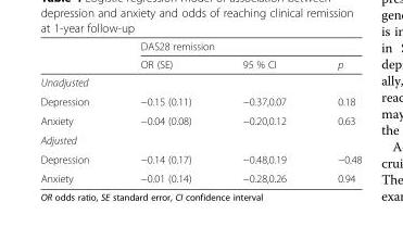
<table><thead><tr><td rowspan="2"></td><td colspan="3">DAS28 remission</td></tr><tr><td>OR (SE)</td><td>95 % CI</td><td>p</td></tr></thead><tbody><tr><td colspan="4">Unadjusted</td></tr><tr><td>Depression</td><td>−0.15 (0.11)</td><td>−0.37,0.07</td><td>0.18</td></tr><tr><td>Anxiety</td><td>−0.04 (0.08)</td><td>−0.20,0.12</td><td>0.63</td></tr><tr><td colspan="4">Adjusted</td></tr><tr><td>Depression</td><td>−0.14 (0.17)</td><td>−0.48,0.19</td><td>−0.48</td></tr><tr><td>Anxiety</td><td>−0.01 (0.14)</td><td>−0.28,0.26</td><td>0.94</td></tr></tbody></table>